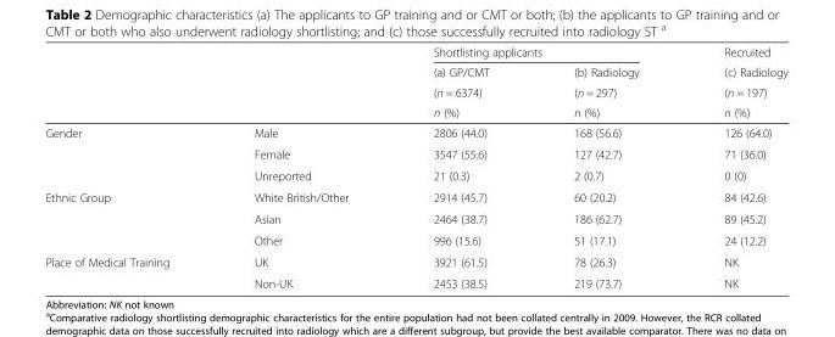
<table><thead><tr><td rowspan="4"></td><td rowspan="4"></td><td colspan="2">Shortlisting applicants</td><td rowspan="4">Recruited (c) Radiology (n = 197) n (%)</td></tr><tr><td rowspan="3">(a) GP/CMT (n = 6374) n (%)</td><td rowspan="3">(b) Radiology (n = 297) n (%)</td></tr><tr></tr><tr></tr></thead><tbody><tr><td rowspan="3">Gender</td><td>Male</td><td>2806 (44.0)</td><td>168 (56.6)</td><td>126 (64.0)</td></tr><tr><td>Female</td><td>3547 (55.6)</td><td>127 (42.7)</td><td>71 (36.0)</td></tr><tr><td>Unreported</td><td>21 (0.3)</td><td>2 (0.7)</td><td>0 (0)</td></tr><tr><td rowspan="3">Ethnic Group</td><td>White British/Other</td><td>2914 (45.7)</td><td>60 (20.2)</td><td>84 (42.6)</td></tr><tr><td>Asian</td><td>2464 (38.7)</td><td>186 (62.7)</td><td>89 (45.2)</td></tr><tr><td>Other</td><td>996 (15.6)</td><td>51 (17.1)</td><td>24 (12.2)</td></tr><tr><td rowspan="2">Place of Medical Training</td><td>UK</td><td>3921 (61.5)</td><td>78 (26.3)</td><td>NK</td></tr><tr><td>Non-UK</td><td>2453 (38.5)</td><td>219 (73.7)</td><td>NK</td></tr></tbody></table>